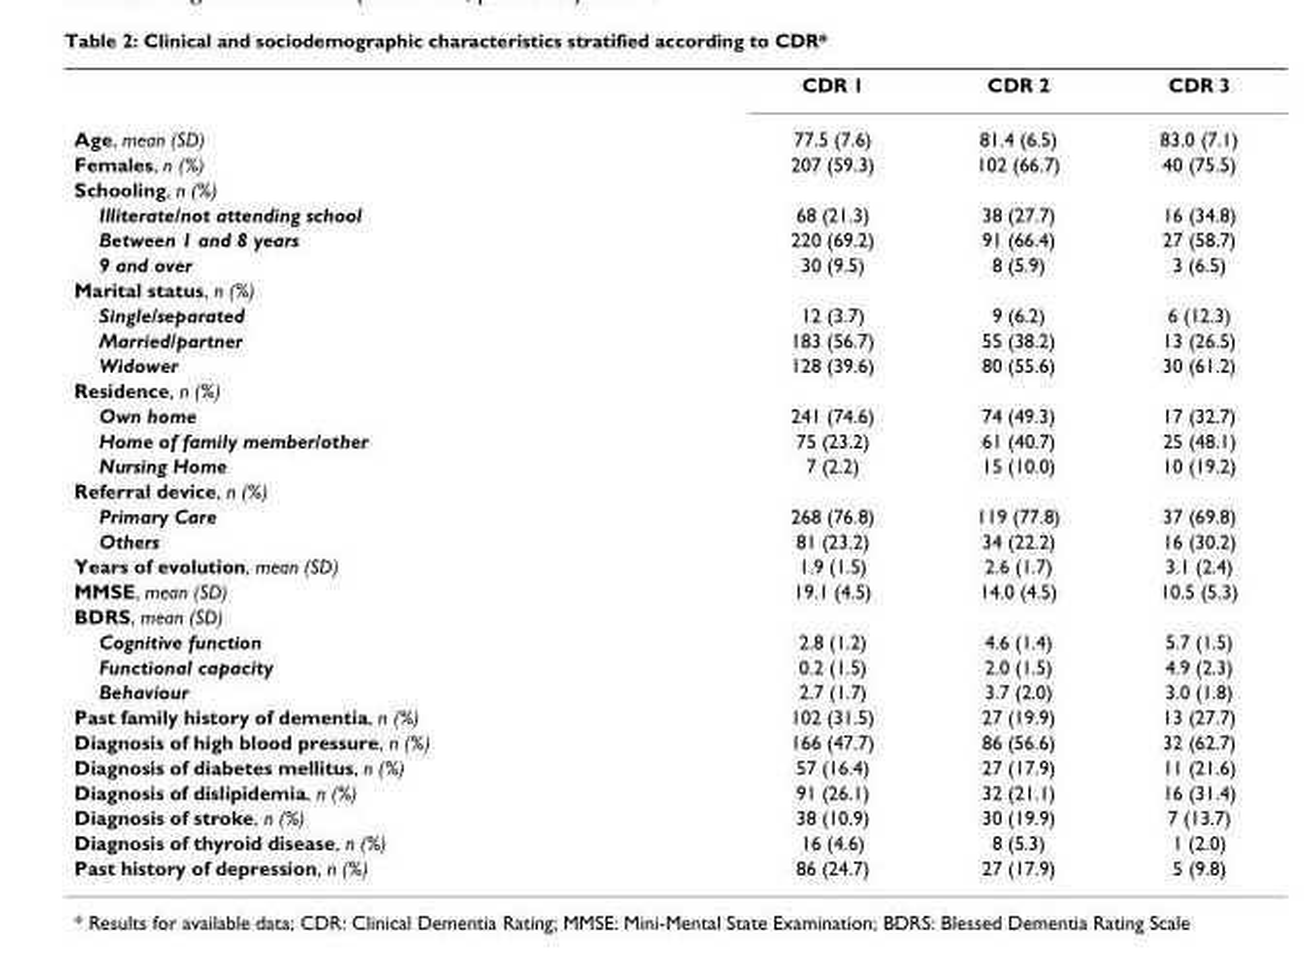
<table><thead><tr><td></td><td>CDR 1</td><td>CDR 2</td><td>CDR 3</td></tr></thead><tbody><tr><td>Age, mean (SD)</td><td>77.5 (7.6)</td><td>81.4 (6.5)</td><td>83.0 (7.1)</td></tr><tr><td>Females, n (%)</td><td>207 (59.3)</td><td>102 (66.7)</td><td>40 (75.5)</td></tr><tr><td colspan="4">Schooling, n (%)</td></tr><tr><td>Illiterate/not attending school</td><td>68 (21.3)</td><td>38 (27.7)</td><td>16 (34.8)</td></tr><tr><td>Between 1 and 8 years</td><td>220 (69.2)</td><td>91 (66.4)</td><td>27 (58.7)</td></tr><tr><td>9 and over</td><td>30 (9.5)</td><td>8 (5.9)</td><td>3 (6.5)</td></tr><tr><td colspan="4">Marital status, n (%)</td></tr><tr><td>Single/separated</td><td>12 (3.7)</td><td>9 (6.2)</td><td>6 (12.3)</td></tr><tr><td>Married/partner</td><td>183 (56.7)</td><td>55 (38.2)</td><td>13 (26.5)</td></tr><tr><td>Widower</td><td>128 (39.6)</td><td>80 (55.6)</td><td>30 (61.2)</td></tr><tr><td colspan="4">Residence, n (%)</td></tr><tr><td>Own home</td><td>241 (74.6)</td><td>74 (49.3)</td><td>17 (32.7)</td></tr><tr><td>Home of family member/other</td><td>75 (23.2)</td><td>61 (40.7)</td><td>25 (48.1)</td></tr><tr><td>Nursing Home</td><td>7 (2.2)</td><td>15 (10.0)</td><td>10 (19.2)</td></tr><tr><td colspan="4">Referral device, n (%)</td></tr><tr><td>Primary Care</td><td>268 (76.8)</td><td>119 (77.8)</td><td>37 (69.8)</td></tr><tr><td>Others</td><td>81 (23.2)</td><td>34 (22.2)</td><td>16 (30.2)</td></tr><tr><td>Years of evolution, mean (SD)</td><td>1.9 (1.5)</td><td>2.6 (1.7)</td><td>3.1 (2.4)</td></tr><tr><td>MMSE, mean (SD)</td><td>19.1 (4.5)</td><td>14.0 (4.5)</td><td>10.5 (5.3)</td></tr><tr><td colspan="4">BDRS, mean (SD)</td></tr><tr><td>Cognitive function</td><td>2.8 (1.2)</td><td>4.6 (1.4)</td><td>5.7 (1.5)</td></tr><tr><td>Functional capacity</td><td>0.2 (1.5)</td><td>2.0 (1.5)</td><td>4.9 (2.3)</td></tr><tr><td>Behaviour</td><td>2.7 (1.7)</td><td>3.7 (2.0)</td><td>3.0 (1.8)</td></tr><tr><td>Past family history of dementia, n (%)</td><td>102 (31.5)</td><td>27 (19.9)</td><td>13 (27.7)</td></tr><tr><td>Diagnosis of high blood pressure, n (%)</td><td>166 (47.7)</td><td>86 (56.6)</td><td>32 (62.7)</td></tr><tr><td>Diagnosis of diabetes mellitus, n (%)</td><td>57 (16.4)</td><td>27 (17.9)</td><td>11 (21.6)</td></tr><tr><td>Diagnosis of dislipidemia, n (%)</td><td>91 (26.1)</td><td>32 (21.1)</td><td>16 (31.4)</td></tr><tr><td>Diagnosis of stroke, n (%)</td><td>38 (10.9)</td><td>30 (19.9)</td><td>7 (13.7)</td></tr><tr><td>Diagnosis of thyroid disease, n (%)</td><td>16 (4.6)</td><td>8 (5.3)</td><td>1 (2.0)</td></tr><tr><td>Past history of depression, n (%)</td><td>86 (24.7)</td><td>27 (17.9)</td><td>5 (9.8)</td></tr></tbody></table>